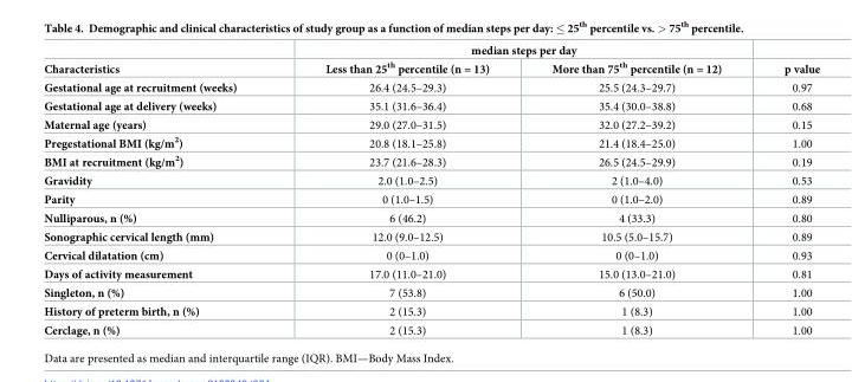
<table><thead><tr><td rowspan="2">Characteristics</td><td colspan="2">median steps per day</td><td rowspan="2">p value</td></tr><tr><td>Less than 25<sup>th</sup> percentile (n = 13)</td><td>More than 75<sup>th</sup> percentile (n = 12)</td></tr></thead><tbody><tr><td>Gestational age at recruitment (weeks)</td><td>26.4 (24.5–29.3)</td><td>25.5 (24.3–29.7)</td><td>0.97</td></tr><tr><td>Gestational age at delivery (weeks)</td><td>35.1 (31.6–36.4)</td><td>35.4 (30.0–38.8)</td><td>0.68</td></tr><tr><td>Maternal age (years)</td><td>29.0 (27.0–31.5)</td><td>32.0 (27.2–39.2)</td><td>0.15</td></tr><tr><td>Pregestational BMI (kg/m<sup>2</sup>)</td><td>20.8 (18.1–25.8)</td><td>21.4 (18.4–25.0)</td><td>1.00</td></tr><tr><td>BMI at recruitment (kg/m<sup>2</sup>)</td><td>23.7 (21.6–28.3)</td><td>26.5 (24.5–29.9)</td><td>0.19</td></tr><tr><td>Gravidity</td><td>2.0 (1.0–2.5)</td><td>2 (1.0–4.0)</td><td>0.53</td></tr><tr><td>Parity</td><td>0 (1.0–1.5)</td><td>0 (1.0–2.0)</td><td>0.89</td></tr><tr><td>Nulliparous, n (%)</td><td>6 (46.2)</td><td>4 (33.3)</td><td>0.80</td></tr><tr><td>Sonographic cervical length (mm)</td><td>12.0 (9.0–12.5)</td><td>10.5 (5.0–15.7)</td><td>0.89</td></tr><tr><td>Cervical dilatation (cm)</td><td>0 (0–1.0)</td><td>0 (0–1.0)</td><td>0.93</td></tr><tr><td>Days of activity measurement</td><td>17.0 (11.0–21.0)</td><td>15.0 (13.0–21.0)</td><td>0.81</td></tr><tr><td>Singleton, n (%)</td><td>7 (53.8)</td><td>6 (50.0)</td><td>1.00</td></tr><tr><td>History of preterm birth, n (%)</td><td>2 (15.3)</td><td>1 (8.3)</td><td>1.00</td></tr><tr><td>Cerclage, n (%)</td><td>2 (15.3)</td><td>1 (8.3)</td><td>1.00</td></tr></tbody></table>